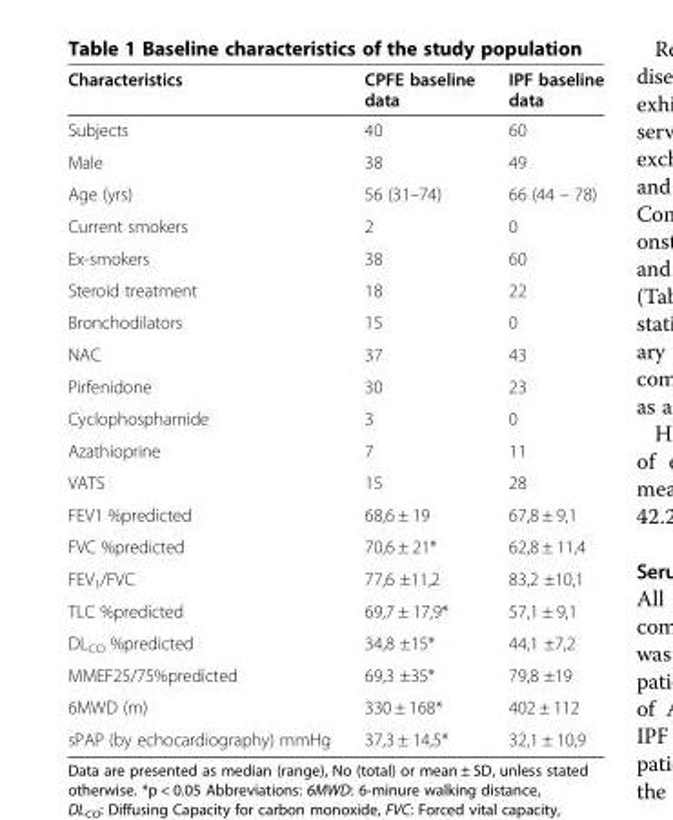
<table><thead><tr><td>Characteristics</td><td>CPFE baseline data</td><td>IPF baseline data</td></tr></thead><tbody><tr><td>Subjects</td><td>40</td><td>60</td></tr><tr><td>Male</td><td>38</td><td>49</td></tr><tr><td>Age (yrs)</td><td>56 (31–74)</td><td>66 (44 – 78)</td></tr><tr><td>Current smokers</td><td>2</td><td>0</td></tr><tr><td>Ex-smokers</td><td>38</td><td>60</td></tr><tr><td>Steroid treatment</td><td>18</td><td>22</td></tr><tr><td>Bronchodilators</td><td>15</td><td>0</td></tr><tr><td>NAC</td><td>37</td><td>43</td></tr><tr><td>Pirfenidone</td><td>30</td><td>23</td></tr><tr><td>Cyclophosphamide</td><td>3</td><td>0</td></tr><tr><td>Azathioprine</td><td>7</td><td>11</td></tr><tr><td>VATS</td><td>15</td><td>28</td></tr><tr><td>FEV1 %predicted</td><td>68,6 ± 19</td><td>67,8 ± 9,1</td></tr><tr><td>FVC %predicted</td><td>70,6 ± 21*</td><td>62,8 ± 11,4</td></tr><tr><td>FEV<sub>1</sub>/FVC</td><td>77,6 ±11,2</td><td>83,2 ±10,1</td></tr><tr><td>TLC %predicted</td><td>69,7 ± 17,9*</td><td>57,1 ± 9,1</td></tr><tr><td>DL<sub>CO</sub> %predicted</td><td>34,8 ±15*</td><td>44,1 ±7,2</td></tr><tr><td>MMEF25/75%predicted</td><td>69,3 ±35*</td><td>79,8 ±19</td></tr><tr><td>6MWD (m)</td><td>330 ± 168*</td><td>402 ± 112</td></tr><tr><td>sPAP (by echocardiography) mmHg</td><td>37,3 ± 14,5*</td><td>32,1 ± 10,9</td></tr></tbody></table>